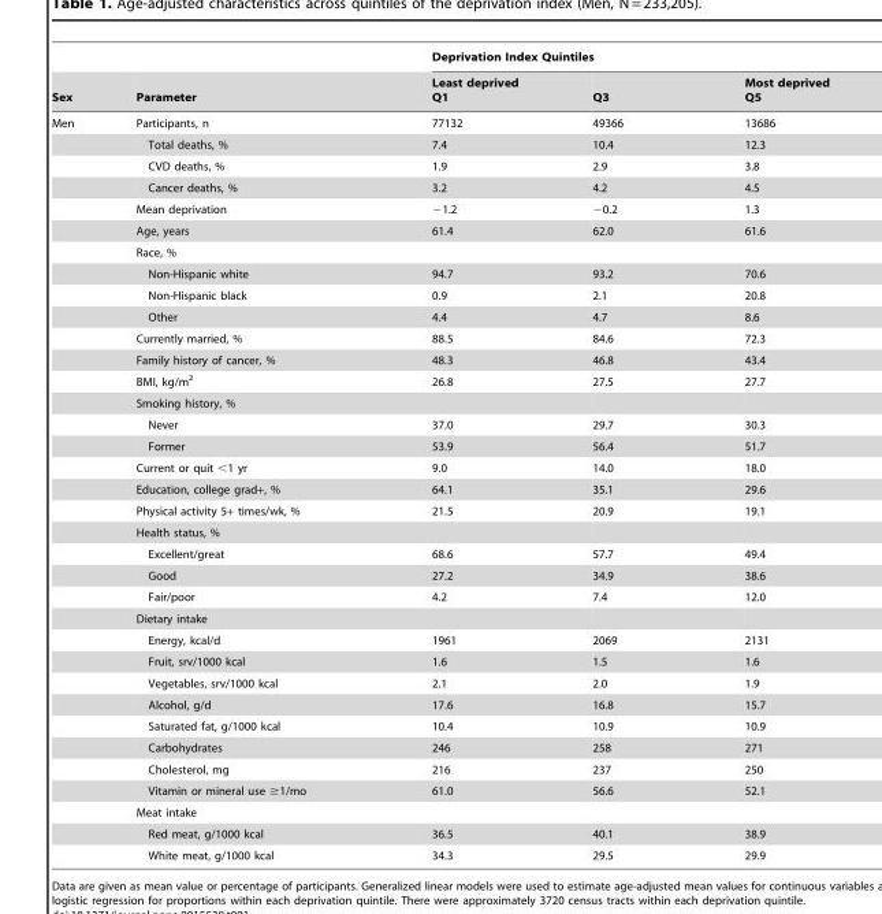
<table><thead><tr><td rowspan="2">Sex</td><td rowspan="2">Parameter</td><td colspan="3">Deprivation Index Quintiles</td></tr><tr><td>Least deprived Q1</td><td>Q3</td><td>Most deprived Q5</td></tr></thead><tbody><tr><td rowspan="35">Men</td><td>Participants, n</td><td>77132</td><td>49366</td><td>13686</td></tr><tr><td>Total deaths, %</td><td>7.4</td><td>10.4</td><td>12.3</td></tr><tr><td>CVD deaths, %</td><td>1.9</td><td>2.9</td><td>3.8</td></tr><tr><td>Cancer deaths, %</td><td>3.2</td><td>4.2</td><td>4.5</td></tr><tr><td>Mean deprivation</td><td>−1.2</td><td>−0.2</td><td>1.3</td></tr><tr><td>Age, years</td><td>61.4</td><td>62.0</td><td>61.6</td></tr><tr><td>Race, %</td><td></td><td></td><td></td></tr><tr><td>Non-Hispanic white</td><td>94.7</td><td>93.2</td><td>70.6</td></tr><tr><td>Non-Hispanic black</td><td>0.9</td><td>2.1</td><td>20.8</td></tr><tr><td>Other</td><td>4.4</td><td>4.7</td><td>8.6</td></tr><tr><td>Currently married, %</td><td>88.5</td><td>84.6</td><td>72.3</td></tr><tr><td>Family history of cancer, %</td><td>48.3</td><td>46.8</td><td>43.4</td></tr><tr><td>BMI, kg/m<sup>2</sup></td><td>26.8</td><td>27.5</td><td>27.7</td></tr><tr><td>Smoking history, %</td><td></td><td></td><td></td></tr><tr><td>Never</td><td>37.0</td><td>29.7</td><td>30.3</td></tr><tr><td>Former</td><td>53.9</td><td>56.4</td><td>51.7</td></tr><tr><td>Current or quit &lt;1 yr</td><td>9.0</td><td>14.0</td><td>18.0</td></tr><tr><td>Education, college grad+, %</td><td>64.1</td><td>35.1</td><td>29.6</td></tr><tr><td>Physical activity 5+ times/wk, %</td><td>21.5</td><td>20.9</td><td>19.1</td></tr><tr><td>Health status, %</td><td></td><td></td><td></td></tr><tr><td>Excellent/great</td><td>68.6</td><td>57.7</td><td>49.4</td></tr><tr><td>Good</td><td>27.2</td><td>34.9</td><td>38.6</td></tr><tr><td>Fair/poor</td><td>4.2</td><td>7.4</td><td>12.0</td></tr><tr><td>Dietary intake</td><td></td><td></td><td></td></tr><tr><td>Energy, kcal/d</td><td>1961</td><td>2069</td><td>2131</td></tr><tr><td>Fruit, srv/1000 kcal</td><td>1.6</td><td>1.5</td><td>1.6</td></tr><tr><td>Vegetables, srv/1000 kcal</td><td>2.1</td><td>2.0</td><td>1.9</td></tr><tr><td>Alcohol, g/d</td><td>17.6</td><td>16.8</td><td>15.7</td></tr><tr><td>Saturated fat, g/1000 kcal</td><td>10.4</td><td>10.9</td><td>10.9</td></tr><tr><td>Carbohydrates</td><td>246</td><td>258</td><td>271</td></tr><tr><td>Cholesterol, mg</td><td>216</td><td>237</td><td>250</td></tr><tr><td>Vitamin or mineral use ≥1/mo</td><td>61.0</td><td>56.6</td><td>52.1</td></tr><tr><td>Meat intake</td><td></td><td></td><td></td></tr><tr><td>Red meat, g/1000 kcal</td><td>36.5</td><td>40.1</td><td>38.9</td></tr><tr><td>White meat, g/1000 kcal</td><td>34.3</td><td>29.5</td><td>29.9</td></tr></tbody></table>